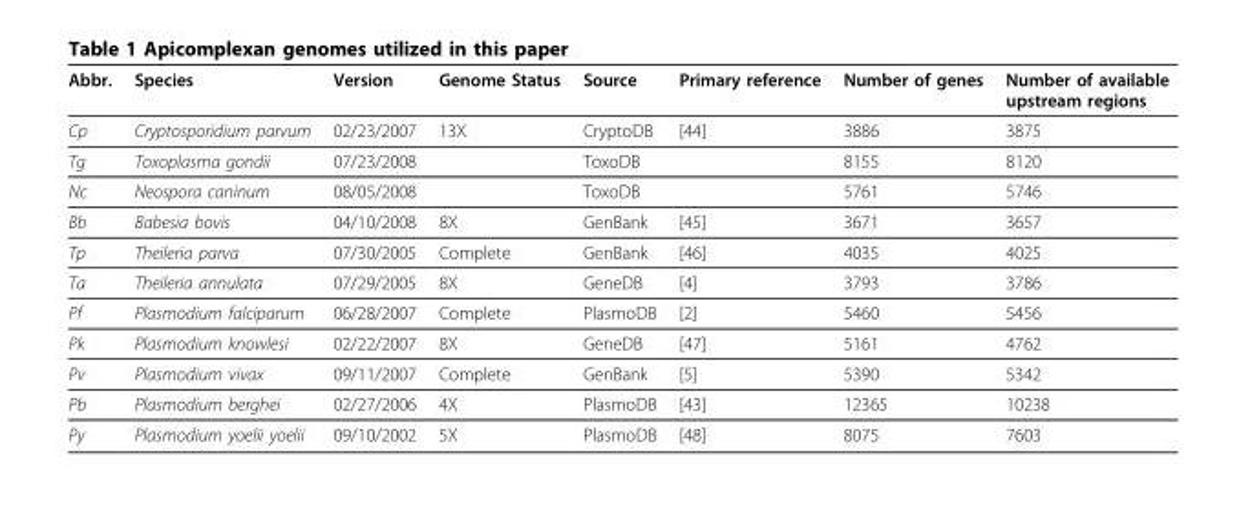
<table><thead><tr><td>Abbr.</td><td>Species</td><td>Version</td><td>Genome Status</td><td>Source</td><td>Primary reference</td><td>Number of genes</td><td>Number of available upstream regions</td></tr></thead><tbody><tr><td>Cp</td><td>Cryptosporidium parvum</td><td>02/23/2007</td><td>13X</td><td>CryptoDB</td><td>[44]</td><td>3886</td><td>3875</td></tr><tr><td>Tg</td><td>Toxoplasma gondii</td><td>07/23/2008</td><td></td><td>ToxoDB</td><td></td><td>8155</td><td>8120</td></tr><tr><td>Nc</td><td>Neospora caninum</td><td>08/05/2008</td><td></td><td>ToxoDB</td><td></td><td>5761</td><td>5746</td></tr><tr><td>Bb</td><td>Babesia bovis</td><td>04/10/2008</td><td>8X</td><td>GenBank</td><td>[45]</td><td>3671</td><td>3657</td></tr><tr><td>Tp</td><td>Theileria parva</td><td>07/30/2005</td><td>Complete</td><td>GenBank</td><td>[46]</td><td>4035</td><td>4025</td></tr><tr><td>Ta</td><td>Theileria annulata</td><td>07/29/2005</td><td>8X</td><td>GeneDB</td><td>[4]</td><td>3793</td><td>3786</td></tr><tr><td>Pf</td><td>Plasmodium falciparum</td><td>06/28/2007</td><td>Complete</td><td>PlasmoDB</td><td>[2]</td><td>5460</td><td>5456</td></tr><tr><td>Pk</td><td>Plasmodium knowlesi</td><td>02/22/2007</td><td>8X</td><td>GeneDB</td><td>[47]</td><td>5161</td><td>4762</td></tr><tr><td>Pv</td><td>Plasmodium vivax</td><td>09/11/2007</td><td>Complete</td><td>GenBank</td><td>[5]</td><td>5390</td><td>5342</td></tr><tr><td>Pb</td><td>Plasmodium berghei</td><td>02/27/2006</td><td>4X</td><td>PlasmoDB</td><td>[43]</td><td>12365</td><td>10238</td></tr><tr><td>Py</td><td>Plasmodium yoelii yoelii</td><td>09/10/2002</td><td>5X</td><td>PlasmoDB</td><td>[48]</td><td>8075</td><td>7603</td></tr></tbody></table>